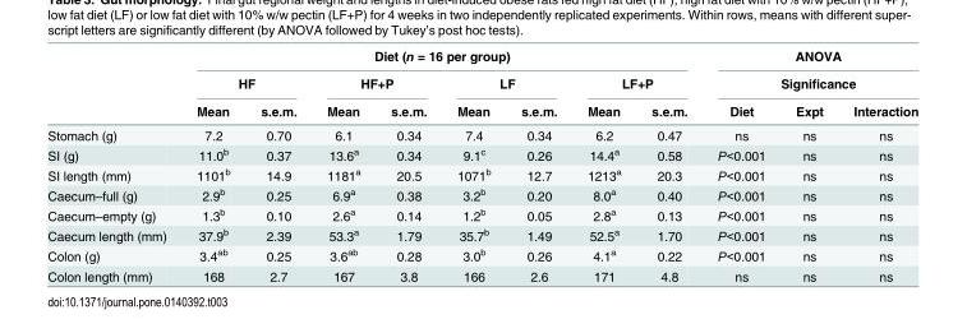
<table><thead><tr><td rowspan="3"></td><td colspan="8">Diet (n = 16 per group)</td><td rowspan="2" colspan="3">ANOVA Significance</td></tr><tr><td colspan="2">HF</td><td colspan="2">HF+P</td><td colspan="2">LF</td><td colspan="2">LF+P</td></tr><tr><td>Mean</td><td>s.e.m.</td><td>Mean</td><td>s.e.m.</td><td>Mean</td><td>s.e.m.</td><td>Mean</td><td>s.e.m.</td><td>Diet</td><td>Expt</td><td>Interaction</td></tr></thead><tbody><tr><td>Stomach (g)</td><td>7.2</td><td>0.70</td><td>6.1</td><td>0.34</td><td>7.4</td><td>0.34</td><td>6.2</td><td>0.47</td><td>ns</td><td>ns</td><td>ns</td></tr><tr><td>SI (g)</td><td>11.0<sup>b</sup></td><td>0.37</td><td>13.6<sup>a</sup></td><td>0.34</td><td>9.1<sup>c</sup></td><td>0.26</td><td>14.4<sup>a</sup></td><td>0.58</td><td>P&lt;0.001</td><td>ns</td><td>ns</td></tr><tr><td>SI length (mm)</td><td>1101<sup>b</sup></td><td>14.9</td><td>1181<sup>a</sup></td><td>20.5</td><td>1071<sup>b</sup></td><td>12.7</td><td>1213<sup>a</sup></td><td>20.3</td><td>P&lt;0.001</td><td>ns</td><td>ns</td></tr><tr><td>Caecum–full (g)</td><td>2.9<sup>b</sup></td><td>0.25</td><td>6.9<sup>a</sup></td><td>0.38</td><td>3.2<sup>b</sup></td><td>0.20</td><td>8.0<sup>a</sup></td><td>0.40</td><td>P&lt;0.001</td><td>ns</td><td>ns</td></tr><tr><td>Caecum–empty (g)</td><td>1.3<sup>b</sup></td><td>0.10</td><td>2.6<sup>a</sup></td><td>0.14</td><td>1.2<sup>b</sup></td><td>0.05</td><td>2.8<sup>a</sup></td><td>0.13</td><td>P&lt;0.001</td><td>ns</td><td>ns</td></tr><tr><td>Caecum length (mm)</td><td>37.9<sup>b</sup></td><td>2.39</td><td>53.3<sup>a</sup></td><td>1.79</td><td>35.7<sup>b</sup></td><td>1.49</td><td>52.5<sup>a</sup></td><td>1.70</td><td>P&lt;0.001</td><td>ns</td><td>ns</td></tr><tr><td>Colon (g)</td><td>3.4<sup>ab</sup></td><td>0.25</td><td>3.6<sup>ab</sup></td><td>0.28</td><td>3.0<sup>b</sup></td><td>0.26</td><td>4.1<sup>a</sup></td><td>0.22</td><td>P&lt;0.001</td><td>ns</td><td>ns</td></tr><tr><td>Colon length (mm)</td><td>168</td><td>2.7</td><td>167</td><td>3.8</td><td>166</td><td>2.6</td><td>171</td><td>4.8</td><td>ns</td><td>ns</td><td>ns</td></tr></tbody></table>